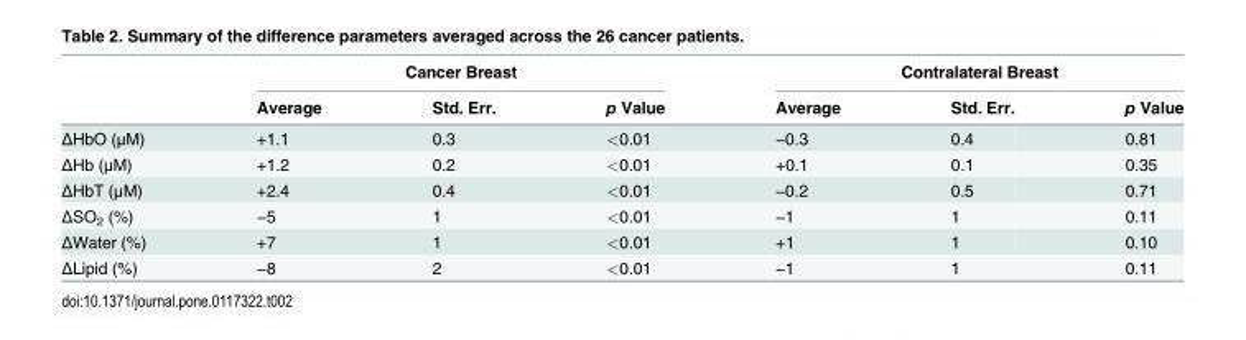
<table><thead><tr><td rowspan="2"></td><td colspan="3">Cancer Breast</td><td colspan="3">Contralateral Breast</td></tr><tr><td>Average</td><td>Std. Err.</td><td>p Value</td><td>Average</td><td>Std. Err.</td><td>p Value</td></tr></thead><tbody><tr><td>ΔHbO (μM)</td><td>+1.1</td><td>0.3</td><td>&lt;0.01</td><td>−0.3</td><td>0.4</td><td>0.81</td></tr><tr><td>ΔHb (μM)</td><td>+1.2</td><td>0.2</td><td>&lt;0.01</td><td>+0.1</td><td>0.1</td><td>0.35</td></tr><tr><td>ΔHbT (μM)</td><td>+2.4</td><td>0.4</td><td>&lt;0.01</td><td>−0.2</td><td>0.5</td><td>0.71</td></tr><tr><td>ΔSO<sub>2</sub> (%)</td><td>−5</td><td>1</td><td>&lt;0.01</td><td>−1</td><td>1</td><td>0.11</td></tr><tr><td>ΔWater (%)</td><td>+7</td><td>1</td><td>&lt;0.01</td><td>+1</td><td>1</td><td>0.10</td></tr><tr><td>ΔLipid (%)</td><td>−8</td><td>2</td><td>&lt;0.01</td><td>−1</td><td>1</td><td>0.11</td></tr></tbody></table>